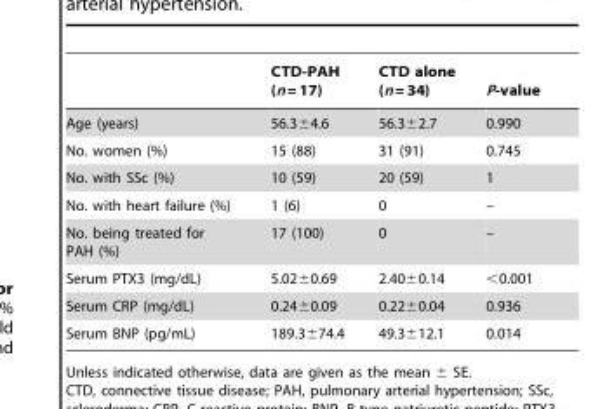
<table><thead><tr><td></td><td>CTD-PAH (n = 17)</td><td>CTD alone (n = 34)</td><td>P-value</td></tr></thead><tbody><tr><td>Age (years)</td><td>56.3±4.6</td><td>56.3±2.7</td><td>0.990</td></tr><tr><td>No. women (%)</td><td>15 (88)</td><td>31 (91)</td><td>0.745</td></tr><tr><td>No. with SSc (%)</td><td>10 (59)</td><td>20 (59)</td><td>1</td></tr><tr><td>No. with heart failure (%)</td><td>1 (6)</td><td>0</td><td>–</td></tr><tr><td>No. being treated for PAH (%)</td><td>17 (100)</td><td>0</td><td>–</td></tr><tr><td>Serum PTX3 (mg/dL)</td><td>5.02±0.69</td><td>2.40±0.14</td><td>&lt;0.001</td></tr><tr><td>Serum CRP (mg/dL)</td><td>0.24±0.09</td><td>0.22±0.04</td><td>0.936</td></tr><tr><td>Serum BNP (pg/mL)</td><td>189.3±74.4</td><td>49.3±12.1</td><td>0.014</td></tr></tbody></table>